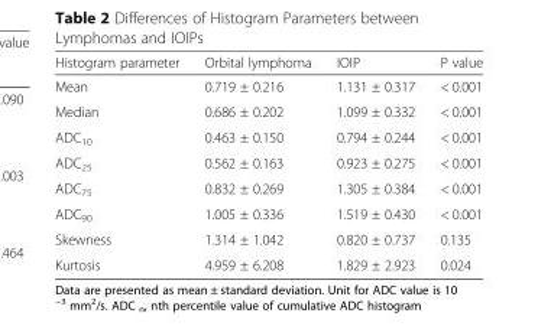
<table><thead><tr><td>Histogram parameter</td><td>Orbital lymphoma</td><td>IOIP</td><td>P value</td></tr></thead><tbody><tr><td>Mean</td><td>0.719 ± 0.216</td><td>1.131 ± 0.317</td><td>&lt; 0.001</td></tr><tr><td>Median</td><td>0.686 ± 0.202</td><td>1.099 ± 0.332</td><td>&lt; 0.001</td></tr><tr><td>ADC<sub>10</sub></td><td>0.463 ± 0.150</td><td>0.794 ± 0.244</td><td>&lt; 0.001</td></tr><tr><td>ADC<sub>25</sub></td><td>0.562 ± 0.163</td><td>0.923 ± 0.275</td><td>&lt; 0.001</td></tr><tr><td>ADC<sub>75</sub></td><td>0.832 ± 0.269</td><td>1.305 ± 0.384</td><td>&lt; 0.001</td></tr><tr><td>ADC<sub>90</sub></td><td>1.005 ± 0.336</td><td>1.519 ± 0.430</td><td>&lt; 0.001</td></tr><tr><td>Skewness</td><td>1.314 ± 1.042</td><td>0.820 ± 0.737</td><td>0.135</td></tr><tr><td>Kurtosis</td><td>4.959 ± 6.208</td><td>1.829 ± 2.923</td><td>0.024</td></tr></tbody></table>